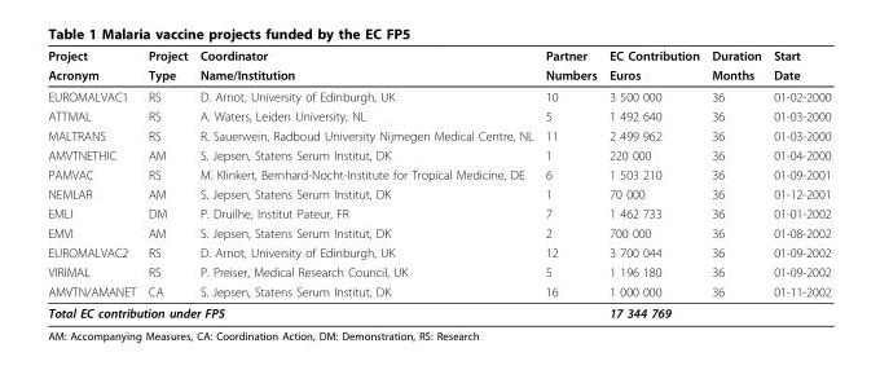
<table><thead><tr><td rowspan="2">Project Acronym</td><td rowspan="2">Project Type</td><td rowspan="2">Coordinator Name/Institution</td><td rowspan="2">Partner Numbers</td><td rowspan="2">EC Contribution Euros</td><td rowspan="2">Duration Months</td><td rowspan="2">Start Date</td></tr><tr></tr></thead><tbody><tr><td>EUROMALVAC1</td><td>RS</td><td>D. Arnot, University of Edinburgh, UK</td><td>10</td><td>3 500 000</td><td>36</td><td>01-02-2000</td></tr><tr><td>ATTMAL</td><td>RS</td><td>A. Waters, Leiden University, NL</td><td>5</td><td>1 492 640</td><td>36</td><td>01-03-2000</td></tr><tr><td>MALTRANS</td><td>RS</td><td>R. Sauerwein, Radboud University Nijmegen Medical Centre, NL</td><td>11</td><td>2 499 962</td><td>36</td><td>01-03-2000</td></tr><tr><td>AMVTNETHIC</td><td>AM</td><td>S. Jepsen, Statens Serum Institut, DK</td><td>1</td><td>220 000</td><td>36</td><td>01-04-2000</td></tr><tr><td>PAMVAC</td><td>RS</td><td>M. Klinkert, Bernhard-Nocht-Institute for Tropical Medicine, DE</td><td>6</td><td>1 503 210</td><td>36</td><td>01-09-2001</td></tr><tr><td>NEMLAR</td><td>AM</td><td>S. Jepsen, Statens Serum Institut, DK</td><td>1</td><td>70 000</td><td>36</td><td>01-12-2001</td></tr><tr><td>EMLI</td><td>DM</td><td>P. Druilhe, Institut Pateur, FR</td><td>7</td><td>1 462 733</td><td>36</td><td>01-01-2002</td></tr><tr><td>EMVI</td><td>AM</td><td>S. Jepsen, Statens Serum Institut, DK</td><td>2</td><td>700 000</td><td>36</td><td>01-08-2002</td></tr><tr><td>EUROMALVAC2</td><td>RS</td><td>D. Arnot, University of Edinburgh, UK</td><td>12</td><td>3 700 044</td><td>36</td><td>01-09-2002</td></tr><tr><td>VIRIMAL</td><td>RS</td><td>P. Preiser, Medical Research Council, UK</td><td>5</td><td>1 196 180</td><td>36</td><td>01-09-2002</td></tr><tr><td>AMVTN/AMANET</td><td>CA</td><td>S. Jepsen, Statens Serum Institut, DK</td><td>16</td><td>1 000 000</td><td>36</td><td>01-11-2002</td></tr><tr><td colspan="3">Total EC contribution under FP5</td><td></td><td>17 344 769</td><td></td><td></td></tr></tbody></table>